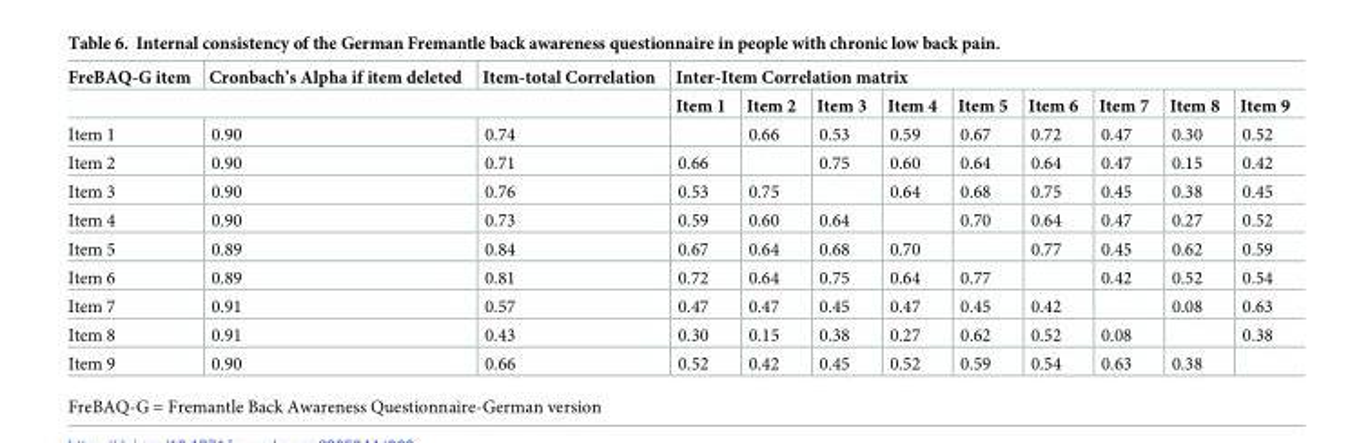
<table><thead><tr><td rowspan="2">FreBAQ-G item</td><td rowspan="2">Cronbach’s Alpha if item deleted</td><td rowspan="2">Item-total Correlation</td><td colspan="9">Inter-Item Correlation matrix</td></tr><tr><td>Item 1</td><td>Item 2</td><td>Item 3</td><td>Item 4</td><td>Item 5</td><td>Item 6</td><td>Item 7</td><td>Item 8</td><td>Item 9</td></tr></thead><tbody><tr><td>Item 1</td><td>0.90</td><td>0.74</td><td></td><td>0.66</td><td>0.53</td><td>0.59</td><td>0.67</td><td>0.72</td><td>0.47</td><td>0.30</td><td>0.52</td></tr><tr><td>Item 2</td><td>0.90</td><td>0.71</td><td>0.66</td><td></td><td>0.75</td><td>0.60</td><td>0.64</td><td>0.64</td><td>0.47</td><td>0.15</td><td>0.42</td></tr><tr><td>Item 3</td><td>0.90</td><td>0.76</td><td>0.53</td><td>0.75</td><td></td><td>0.64</td><td>0.68</td><td>0.75</td><td>0.45</td><td>0.38</td><td>0.45</td></tr><tr><td>Item 4</td><td>0.90</td><td>0.73</td><td>0.59</td><td>0.60</td><td>0.64</td><td></td><td>0.70</td><td>0.64</td><td>0.47</td><td>0.27</td><td>0.52</td></tr><tr><td>Item 5</td><td>0.89</td><td>0.84</td><td>0.67</td><td>0.64</td><td>0.68</td><td>0.70</td><td></td><td>0.77</td><td>0.45</td><td>0.62</td><td>0.59</td></tr><tr><td>Item 6</td><td>0.89</td><td>0.81</td><td>0.72</td><td>0.64</td><td>0.75</td><td>0.64</td><td>0.77</td><td></td><td>0.42</td><td>0.52</td><td>0.54</td></tr><tr><td>Item 7</td><td>0.91</td><td>0.57</td><td>0.47</td><td>0.47</td><td>0.45</td><td>0.47</td><td>0.45</td><td>0.42</td><td></td><td>0.08</td><td>0.63</td></tr><tr><td>Item 8</td><td>0.91</td><td>0.43</td><td>0.30</td><td>0.15</td><td>0.38</td><td>0.27</td><td>0.62</td><td>0.52</td><td>0.08</td><td></td><td>0.38</td></tr><tr><td>Item 9</td><td>0.90</td><td>0.66</td><td>0.52</td><td>0.42</td><td>0.45</td><td>0.52</td><td>0.59</td><td>0.54</td><td>0.63</td><td>0.38</td><td></td></tr></tbody></table>